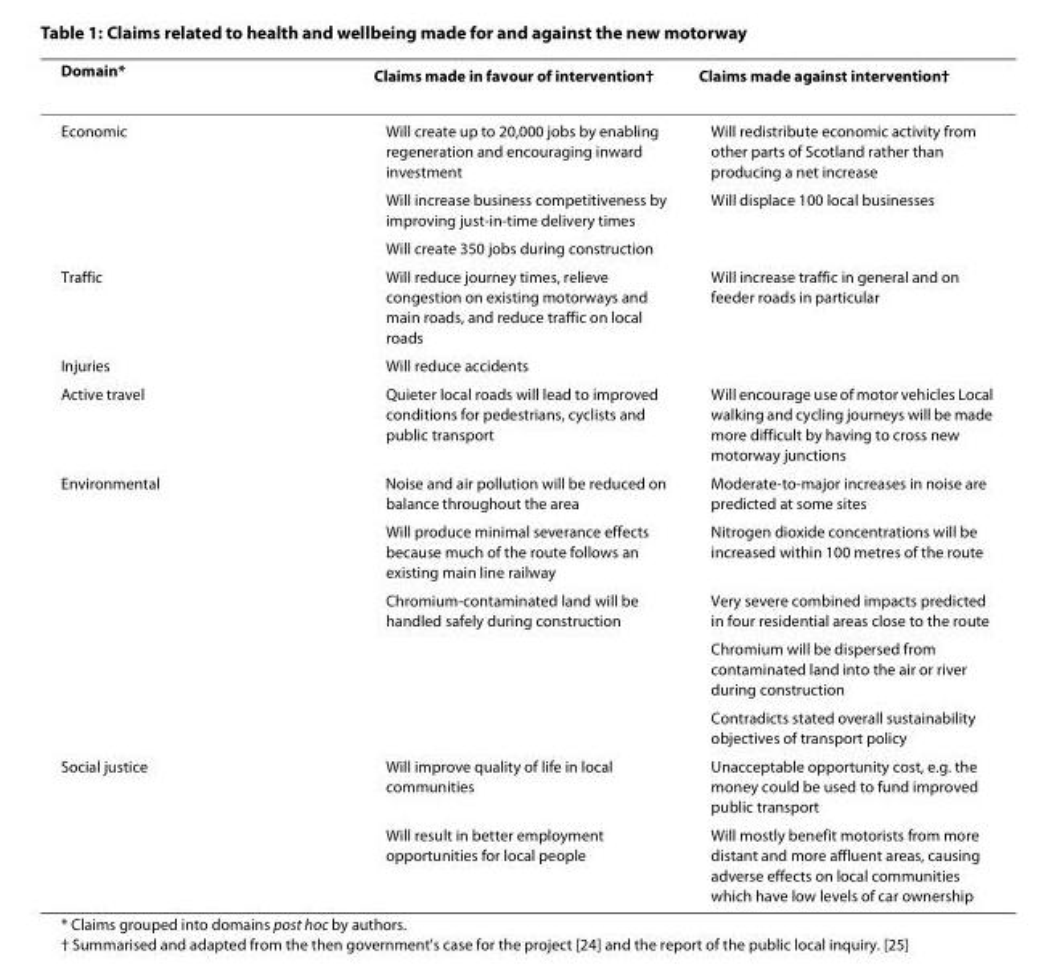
<table><thead><tr><td>Domain*</td><td>Claims made in favour of intervention<sup>†</sup></td><td>Claims made against intervention<sup>†</sup></td></tr></thead><tbody><tr><td rowspan="3">Economic</td><td>Will create up to 20,000 jobs by enabling regeneration and encouraging inward investment</td><td>Will redistribute economic activity from other parts of Scotland rather than producing a net increase</td></tr><tr><td>Will increase business competitiveness by improving just-in-time delivery times</td><td>Will displace 100 local businesses</td></tr><tr><td>Will create 350 jobs during construction</td><td></td></tr><tr><td>Traffic</td><td>Will reduce journey times, relieve congestion on existing motorways and main roads, and reduce traffic on local roads</td><td>Will increase traffic in general and on feeder roads in particular</td></tr><tr><td>Injuries</td><td>Will reduce accidents</td><td></td></tr><tr><td>Active travel</td><td>Quieter local roads will lead to improved conditions for pedestrians, cyclists and public transport</td><td>Will encourage use of motor vehicles Local walking and cycling journeys will be made more difficult by having to cross new motorway junctions</td></tr><tr><td rowspan="5">Environmental</td><td>Noise and air pollution will be reduced on balance throughout the area</td><td>Moderate-to-major increases in noise are predicted at some sites</td></tr><tr><td>Will produce minimal severance effects because much of the route follows an existing main line railway</td><td>Nitrogen dioxide concentrations will be increased within 100 metres of the route</td></tr><tr><td>Chromium-contaminated land will be handled safely during construction</td><td>Very severe combined impacts predicted in four residential areas close to the route</td></tr><tr><td></td><td>Chromium will be dispersed from contaminated land into the air or river during construction</td></tr><tr><td></td><td>Contradicts stated overall sustainability objectives of transport policy</td></tr><tr><td rowspan="2">Social justice</td><td>Will improve quality of life in local communities</td><td>Unacceptable opportunity cost, e.g. the money could be used to fund improved public transport</td></tr><tr><td>Will result in better employment opportunities for local people</td><td>Will mostly benefit motorists from more distant and more affluent areas, causing adverse effects on local communities which have low levels of car ownership</td></tr></tbody></table>